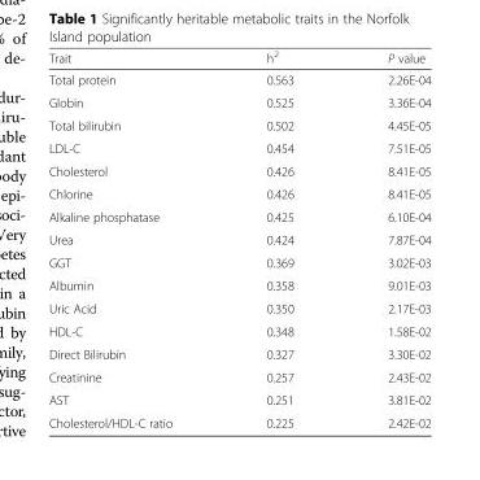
<table><thead><tr><td>Trait</td><td>h<sup>2</sup></td><td>P value</td></tr></thead><tbody><tr><td>Total protein</td><td>0.563</td><td>2.26E-04</td></tr><tr><td>Globin</td><td>0.525</td><td>3.36E-04</td></tr><tr><td>Total bilirubin</td><td>0.502</td><td>4.45E-05</td></tr><tr><td>LDL-C</td><td>0.454</td><td>7.51E-05</td></tr><tr><td>Cholesterol</td><td>0.426</td><td>8.41E-05</td></tr><tr><td>Chlorine</td><td>0.426</td><td>8.41E-05</td></tr><tr><td>Alkaline phosphatase</td><td>0.425</td><td>6.10E-04</td></tr><tr><td>Urea</td><td>0.424</td><td>7.87E-04</td></tr><tr><td>GGT</td><td>0.369</td><td>3.02E-03</td></tr><tr><td>Albumin</td><td>0.358</td><td>9.01E-03</td></tr><tr><td>Uric Acid</td><td>0.350</td><td>2.17E-03</td></tr><tr><td>HDL-C</td><td>0.348</td><td>1.58E-02</td></tr><tr><td>Direct Bilirubin</td><td>0.327</td><td>3.30E-02</td></tr><tr><td>Creatinine</td><td>0.257</td><td>2.43E-02</td></tr><tr><td>AST</td><td>0.251</td><td>3.81E-02</td></tr><tr><td>Cholesterol/HDL-C ratio</td><td>0.225</td><td>2.42E-02</td></tr></tbody></table>